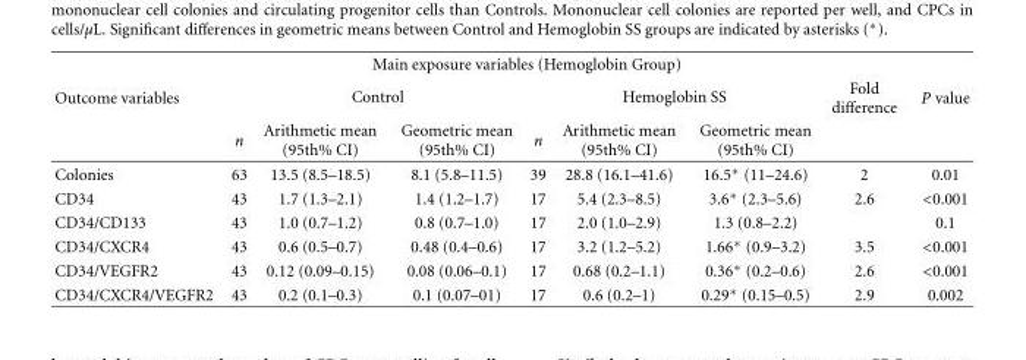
<table><thead><tr><td rowspan="3">Outcome variables</td><td colspan="6">Main exposure variables (Hemoglobin Group)</td><td rowspan="3">Fold difference</td><td rowspan="3">P value</td></tr><tr><td colspan="3">Control</td><td colspan="3">Hemoglobin SS</td></tr><tr><td>n</td><td>Arithmetic mean (95th% CI)</td><td>Geometric mean (95th% CI)</td><td>n</td><td>Arithmetic mean (95th% CI)</td><td>Geometric mean (95th% CI)</td></tr></thead><tbody><tr><td>Colonies</td><td>63</td><td>13.5 (8.5–18.5)</td><td>8.1 (5.8–11.5)</td><td>39</td><td>28.8 (16.1–41.6)</td><td>16.5∗ (11–24.6)</td><td>2</td><td>0.01</td></tr><tr><td>CD34</td><td>43</td><td>1.7 (1.3–2.1)</td><td>1.4 (1.2–1.7)</td><td>17</td><td>5.4 (2.3–8.5)</td><td>3.6∗ (2.3–5.6)</td><td>2.6</td><td>&lt;0.001</td></tr><tr><td>CD34/CD133</td><td>43</td><td>1.0 (0.7–1.2)</td><td>0.8 (0.7–1.0)</td><td>17</td><td>2.0 (1.0–2.9)</td><td>1.3 (0.8–2.2)</td><td></td><td>0.1</td></tr><tr><td>CD34/CXCR4</td><td>43</td><td>0.6 (0.5–0.7)</td><td>0.48 (0.4–0.6)</td><td>17</td><td>3.2 (1.2–5.2)</td><td>1.66∗ (0.9–3.2)</td><td>3.5</td><td>&lt;0.001</td></tr><tr><td>CD34/VEGFR2</td><td>43</td><td>0.12 (0.09–0.15)</td><td>0.08 (0.06–0.1)</td><td>17</td><td>0.68 (0.2–1.1)</td><td>0.36∗ (0.2–0.6)</td><td>2.6</td><td>&lt;0.001</td></tr><tr><td>CD34/CXCR4/VEGFR2</td><td>43</td><td>0.2 (0.1–0.3)</td><td>0.1 (0.07–01)</td><td>17</td><td>0.6 (0.2–1)</td><td>0.29∗ (0.15–0.5)</td><td>2.9</td><td>0.002</td></tr></tbody></table>